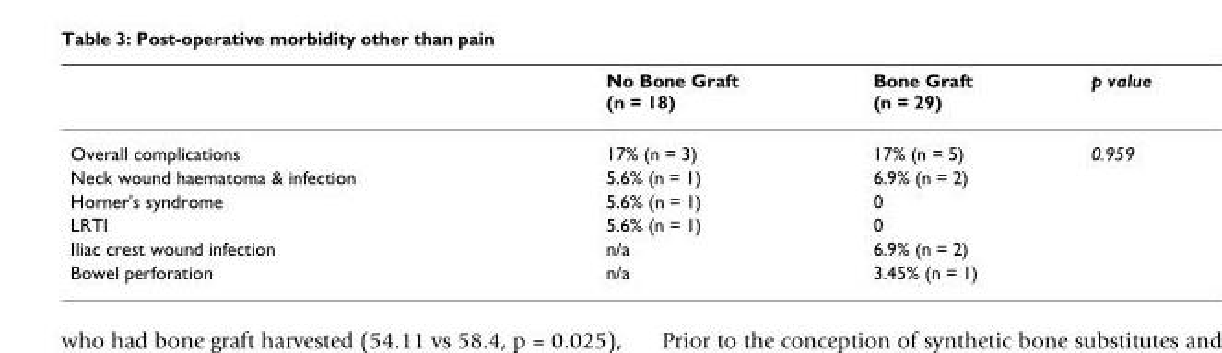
<table><thead><tr><td></td><td>No Bone Graft (n = 18)</td><td>Bone Graft (n = 29)</td><td>p value</td></tr></thead><tbody><tr><td>Overall complications</td><td>17% (n = 3)</td><td>17% (n = 5)</td><td>0.959</td></tr><tr><td>Neck wound haematoma &amp; infection</td><td>5.6% (n = 1)</td><td>6.9% (n = 2)</td><td></td></tr><tr><td>Horner&#x27;s syndrome</td><td>5.6% (n = 1)</td><td>0</td><td></td></tr><tr><td>LRTI</td><td>5.6% (n = 1)</td><td>0</td><td></td></tr><tr><td>Iliac crest wound infection</td><td>n/a</td><td>6.9% (n = 2)</td><td></td></tr><tr><td>Bowel perforation</td><td>n/a</td><td>3.45% (n = 1)</td><td></td></tr></tbody></table>